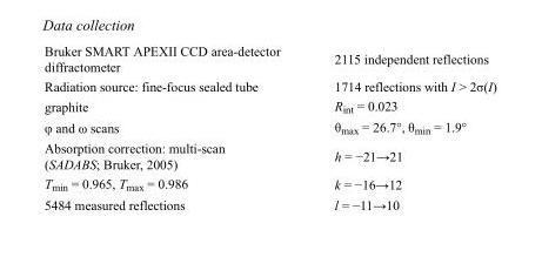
<table><tbody><tr><td>Bruker SMART APEXII CCD area-detector diffractometer</td><td>2115 independent reflections</td></tr><tr><td>Radiation source: fine-focus sealed tube</td><td>1714 reflections with I &gt; 2σ(I)</td></tr><tr><td>graphite</td><td>R<sub>int</sub> = 0.023</td></tr><tr><td>φ and ω scans</td><td>θ<sub>max</sub> = 26.7°, θ<sub>min</sub> = 1.9°</td></tr><tr><td>Absorption correction: multi-scan (SADABS; Bruker, 2005)</td><td>h = −21→21</td></tr><tr><td>T<sub>min</sub> = 0.965, T<sub>max</sub> = 0.986</td><td>k = −16→12</td></tr><tr><td>5484 measured reflections</td><td>l = −11→10</td></tr></tbody></table>